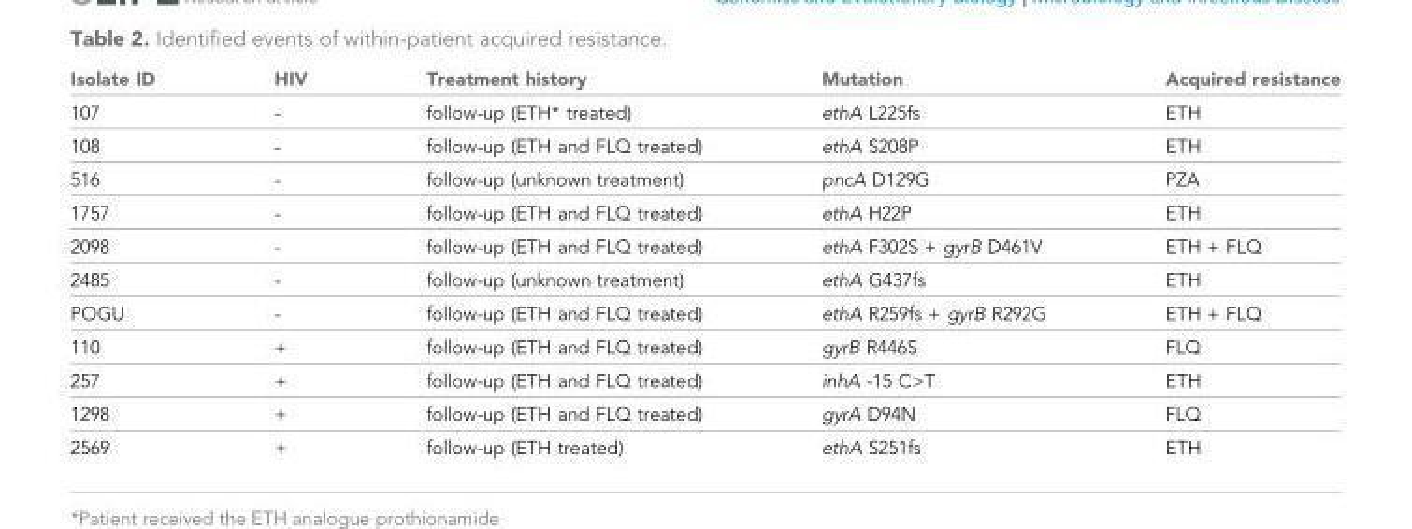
<table><thead><tr><td>Isolate ID</td><td>HIV</td><td>Treatment history</td><td>Mutation</td><td>Acquired resistance</td></tr></thead><tbody><tr><td>107</td><td>-</td><td>follow-up (ETH* treated)</td><td>ethA L225fs</td><td>ETH</td></tr><tr><td>108</td><td>-</td><td>follow-up (ETH and FLQ treated)</td><td>ethA S208P</td><td>ETH</td></tr><tr><td>516</td><td>-</td><td>follow-up (unknown treatment)</td><td>pncA D129G</td><td>PZA</td></tr><tr><td>1757</td><td>-</td><td>follow-up (ETH and FLQ treated)</td><td>ethA H22P</td><td>ETH</td></tr><tr><td>2098</td><td>-</td><td>follow-up (ETH and FLQ treated)</td><td>ethA F302S + gyrB D461V</td><td>ETH + FLQ</td></tr><tr><td>2485</td><td>-</td><td>follow-up (unknown treatment)</td><td>ethA G437fs</td><td>ETH</td></tr><tr><td>POGU</td><td>-</td><td>follow-up (ETH and FLQ treated)</td><td>ethA R259fs + gyrB R292G</td><td>ETH + FLQ</td></tr><tr><td>110</td><td>+</td><td>follow-up (ETH and FLQ treated)</td><td>gyrB R446S</td><td>FLQ</td></tr><tr><td>257</td><td>+</td><td>follow-up (ETH and FLQ treated)</td><td>inhA -15 C&gt;T</td><td>ETH</td></tr><tr><td>1298</td><td>+</td><td>follow-up (ETH and FLQ treated)</td><td>gyrA D94N</td><td>FLQ</td></tr><tr><td>2569</td><td>+</td><td>follow-up (ETH treated)</td><td>ethA S251fs</td><td>ETH</td></tr></tbody></table>